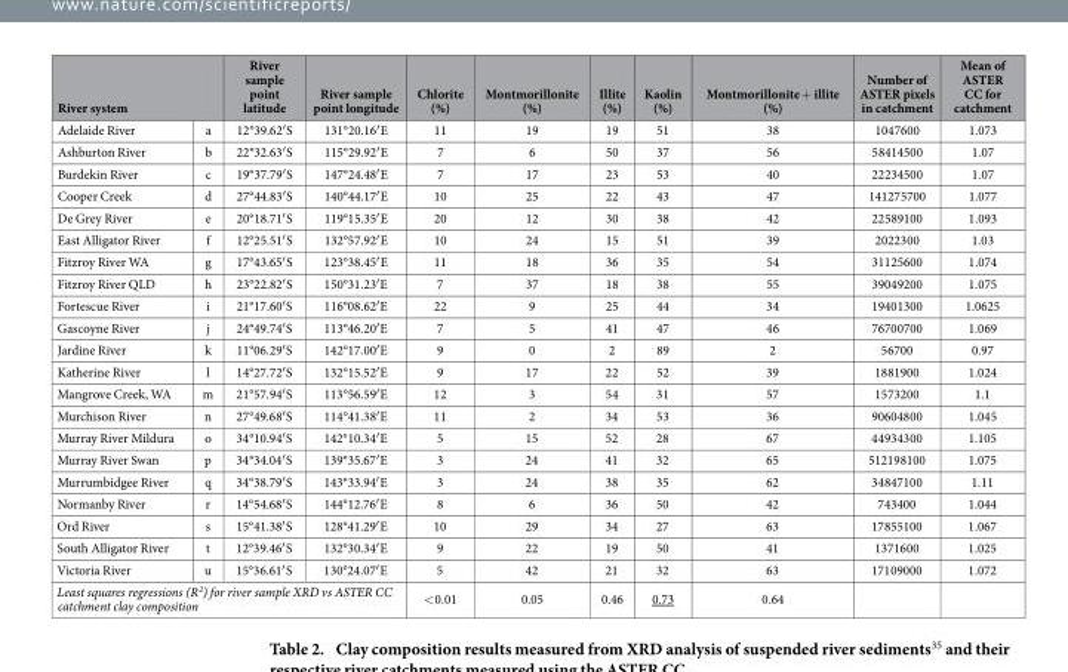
<table><thead><tr><td colspan="2">River system</td><td rowspan="2">River sample point latitude 12°39.62′ S</td><td rowspan="2">River sample point longitude 131°20.16′ E</td><td rowspan="2">Chlorite (%) 11</td><td rowspan="2">Montmorillonite (%) 19</td><td rowspan="2">Illite (%) 19</td><td rowspan="2">Kaolin (%) 51</td><td rowspan="2">Montmorillonite + illite (%) 38</td><td rowspan="2">Number of ASTER pixels in catchment 1047600</td><td rowspan="2">Mean of ASTER CC for catchment 1.073</td></tr><tr><td>Adelaide River</td><td>a</td></tr></thead><tbody><tr><td>Ashburton River</td><td>b</td><td>22°32.63′ S</td><td>115°29.92′ E</td><td>7</td><td>6</td><td>50</td><td>37</td><td>56</td><td>58414500</td><td>1.07</td></tr><tr><td>Burdekin River</td><td>c</td><td>19°37.79′ S</td><td>147°24.48′ E</td><td>7</td><td>17</td><td>23</td><td>53</td><td>40</td><td>22234500</td><td>1.07</td></tr><tr><td>Cooper Creek</td><td>d</td><td>27°44.83′ S</td><td>140°44.17′ E</td><td>10</td><td>25</td><td>22</td><td>43</td><td>47</td><td>141275700</td><td>1.077</td></tr><tr><td>De Grey River</td><td>e</td><td>20°18.71′ S</td><td>119°15.35′ E</td><td>20</td><td>12</td><td>30</td><td>38</td><td>42</td><td>22589100</td><td>1.093</td></tr><tr><td>East Alligator River</td><td>f</td><td>12°25.51′ S</td><td>132°57.92′ E</td><td>10</td><td>24</td><td>15</td><td>51</td><td>39</td><td>2022300</td><td>1.03</td></tr><tr><td>Fitzroy River WA</td><td>g</td><td>17°43.65′ S</td><td>123°38.45′ E</td><td>11</td><td>18</td><td>36</td><td>35</td><td>54</td><td>31125600</td><td>1.074</td></tr><tr><td>Fitzroy River QLD</td><td>h</td><td>23°22.82′ S</td><td>150°31.23′ E</td><td>7</td><td>37</td><td>18</td><td>38</td><td>55</td><td>39049200</td><td>1.075</td></tr><tr><td>Fortescue River</td><td>i</td><td>21°17.60′ S</td><td>116°08.62′ E</td><td>22</td><td>9</td><td>25</td><td>44</td><td>34</td><td>19401300</td><td>1.0625</td></tr><tr><td>Gascoyne River</td><td>j</td><td>24°49.74′ S</td><td>113°46.20′ E</td><td>7</td><td>5</td><td>41</td><td>47</td><td>46</td><td>76700700</td><td>1.069</td></tr><tr><td>Jardine River</td><td>k</td><td>11°06.29′ S</td><td>142°17.00′ E</td><td>9</td><td>0</td><td>2</td><td>89</td><td>2</td><td>56700</td><td>0.97</td></tr><tr><td>Katherine River</td><td>l</td><td>14°27.72′ S</td><td>132°15.52′ E</td><td>9</td><td>17</td><td>22</td><td>52</td><td>39</td><td>1881900</td><td>1.024</td></tr><tr><td>Mangrove Creek, WA</td><td>m</td><td>21°57.94′ S</td><td>113°56.59′ E</td><td>12</td><td>3</td><td>54</td><td>31</td><td>57</td><td>1573200</td><td>1.1</td></tr><tr><td>Murchison River</td><td>n</td><td>27°49.68′ S</td><td>114°41.38′ E</td><td>11</td><td>2</td><td>34</td><td>53</td><td>36</td><td>90604800</td><td>1.045</td></tr><tr><td>Murray River Mildura</td><td>o</td><td>34°10.94′ S</td><td>142°10.34′ E</td><td>5</td><td>15</td><td>52</td><td>28</td><td>67</td><td>44934300</td><td>1.105</td></tr><tr><td>Murray River Swan</td><td>p</td><td>34°34.04′ S</td><td>139°35.67′ E</td><td>3</td><td>24</td><td>41</td><td>32</td><td>65</td><td>512198100</td><td>1.075</td></tr><tr><td>Murrumbidgee River</td><td>q</td><td>34°38.79′ S</td><td>143°33.94′ E</td><td>3</td><td>24</td><td>38</td><td>35</td><td>62</td><td>34847100</td><td>1.11</td></tr><tr><td>Normanby River</td><td>r</td><td>14°54.68′ S</td><td>144°12.76′ E</td><td>8</td><td>6</td><td>36</td><td>50</td><td>42</td><td>743400</td><td>1.044</td></tr><tr><td>Ord River</td><td>s</td><td>15°41.38′ S</td><td>128°41.29′ E</td><td>10</td><td>29</td><td>34</td><td>27</td><td>63</td><td>17855100</td><td>1.067</td></tr><tr><td>South Alligator River</td><td>t</td><td>12°39.46′ S</td><td>132°30.34′ E</td><td>9</td><td>22</td><td>19</td><td>50</td><td>41</td><td>1371600</td><td>1.025</td></tr><tr><td>Victoria River</td><td>u</td><td>15°36.61′ S</td><td>130°24.07′ E</td><td>5</td><td>42</td><td>21</td><td>32</td><td>63</td><td>17109000</td><td>1.072</td></tr><tr><td colspan="4">Least squares regressions (R<sup>2</sup>) for river sample XRD vs ASTER CC catchment clay composition</td><td>&lt; 0.01</td><td>0.05</td><td>0.46</td><td>0.73</td><td>0.64</td><td></td><td></td></tr></tbody></table>